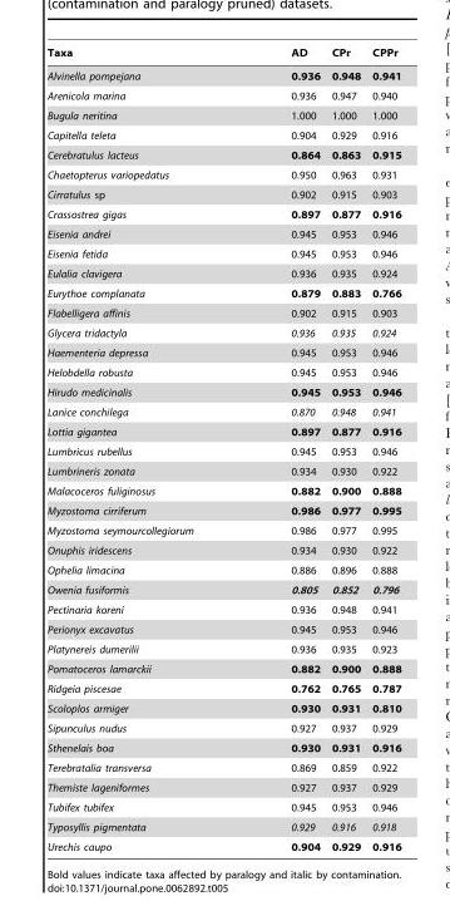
<table><thead><tr><td>Taxa</td><td>AD</td><td>CPr</td><td>CPPr</td></tr></thead><tbody><tr><td>Alvinella pompejana</td><td>0.936</td><td>0.948</td><td>0.941</td></tr><tr><td>Arenicola marina</td><td>0.936</td><td>0.947</td><td>0.940</td></tr><tr><td>Bugula neritina</td><td>1.000</td><td>1.000</td><td>1.000</td></tr><tr><td>Capitella teleta</td><td>0.904</td><td>0.929</td><td>0.916</td></tr><tr><td>Cerebratulus lacteus</td><td>0.864</td><td>0.863</td><td>0.915</td></tr><tr><td>Chaetopterus variopedatus</td><td>0.950</td><td>0.963</td><td>0.931</td></tr><tr><td>Cirratulus sp</td><td>0.902</td><td>0.915</td><td>0.903</td></tr><tr><td>Crassostrea gigas</td><td>0.897</td><td>0.877</td><td>0.916</td></tr><tr><td>Eisenia andrei</td><td>0.945</td><td>0.953</td><td>0.946</td></tr><tr><td>Eisenia fetida</td><td>0.945</td><td>0.953</td><td>0.946</td></tr><tr><td>Eulalia clavigera</td><td>0.936</td><td>0.935</td><td>0.924</td></tr><tr><td>Eurythoe complanata</td><td>0.879</td><td>0.883</td><td>0.766</td></tr><tr><td>Flabelligera affinis</td><td>0.902</td><td>0.915</td><td>0.903</td></tr><tr><td>Glycera tridactyla</td><td>0.936</td><td>0.935</td><td>0.924</td></tr><tr><td>Haementeria depressa</td><td>0.945</td><td>0.953</td><td>0.946</td></tr><tr><td>Helobdella robusta</td><td>0.945</td><td>0.953</td><td>0.946</td></tr><tr><td>Hirudo medicinalis</td><td>0.945</td><td>0.953</td><td>0.946</td></tr><tr><td>Lanice conchilega</td><td>0.870</td><td>0.948</td><td>0.941</td></tr><tr><td>Lottia gigantea</td><td>0.897</td><td>0.877</td><td>0.916</td></tr><tr><td>Lumbricus rubellus</td><td>0.945</td><td>0.953</td><td>0.946</td></tr><tr><td>Lumbrineris zonata</td><td>0.934</td><td>0.930</td><td>0.922</td></tr><tr><td>Malacoceros fuliginosus</td><td>0.882</td><td>0.900</td><td>0.888</td></tr><tr><td>Myzostoma cirriferum</td><td>0.986</td><td>0.977</td><td>0.995</td></tr><tr><td>Myzostoma seymourcollegiorum</td><td>0.986</td><td>0.977</td><td>0.995</td></tr><tr><td>Onuphis iridescens</td><td>0.934</td><td>0.930</td><td>0.922</td></tr><tr><td>Ophelia limacina</td><td>0.886</td><td>0.896</td><td>0.888</td></tr><tr><td>Owenia fusiformis</td><td>0.805</td><td>0.852</td><td>0.796</td></tr><tr><td>Pectinaria koreni</td><td>0.936</td><td>0.948</td><td>0.941</td></tr><tr><td>Perionyx excavatus</td><td>0.945</td><td>0.953</td><td>0.946</td></tr><tr><td>Platynereis dumerilii</td><td>0.936</td><td>0.935</td><td>0.923</td></tr><tr><td>Pomatoceros lamarckii</td><td>0.882</td><td>0.900</td><td>0.888</td></tr><tr><td>Ridgeia piscesae</td><td>0.762</td><td>0.765</td><td>0.787</td></tr><tr><td>Scoloplos armiger</td><td>0.930</td><td>0.931</td><td>0.810</td></tr><tr><td>Sipunculus nudus</td><td>0.927</td><td>0.937</td><td>0.929</td></tr><tr><td>Sthenelais boa</td><td>0.930</td><td>0.931</td><td>0.916</td></tr><tr><td>Terebratalia transversa</td><td>0.869</td><td>0.859</td><td>0.922</td></tr><tr><td>Themiste lageniformes</td><td>0.927</td><td>0.937</td><td>0.929</td></tr><tr><td>Tubifex tubifex</td><td>0.945</td><td>0.953</td><td>0.946</td></tr><tr><td>Typosyllis pigmentata</td><td>0.929</td><td>0.916</td><td>0.918</td></tr><tr><td>Urechis caupo</td><td>0.904</td><td>0.929</td><td>0.916</td></tr></tbody></table>